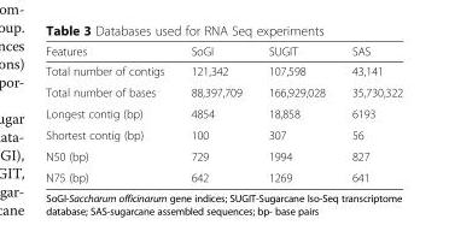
<table><thead><tr><td>Features</td><td>SoGI</td><td>SUGIT</td><td>SAS</td></tr></thead><tbody><tr><td>Total number of contigs</td><td>121,342</td><td>107,598</td><td>43,141</td></tr><tr><td>Total number of bases</td><td>88,397,709</td><td>166,929,028</td><td>35,730,322</td></tr><tr><td>Longest contig (bp)</td><td>4854</td><td>18,858</td><td>6193</td></tr><tr><td>Shortest contig (bp)</td><td>100</td><td>307</td><td>56</td></tr><tr><td>N50 (bp)</td><td>729</td><td>1994</td><td>827</td></tr><tr><td>N75 (bp)</td><td>642</td><td>1269</td><td>641</td></tr></tbody></table>